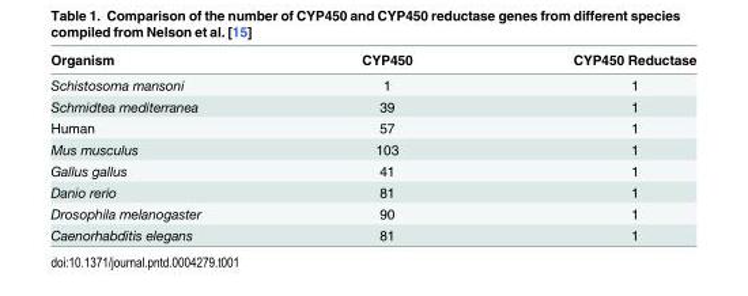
<table><thead><tr><td>Organism</td><td>CYP450</td><td>CYP450 Reductase</td></tr></thead><tbody><tr><td>Schistosoma mansoni</td><td>1</td><td>1</td></tr><tr><td>Schmidtea mediterranea</td><td>39</td><td>1</td></tr><tr><td>Human</td><td>57</td><td>1</td></tr><tr><td>Mus musculus</td><td>103</td><td>1</td></tr><tr><td>Gallus gallus</td><td>41</td><td>1</td></tr><tr><td>Danio rerio</td><td>81</td><td>1</td></tr><tr><td>Drosophila melanogaster</td><td>90</td><td>1</td></tr><tr><td>Caenorhabditis elegans</td><td>81</td><td>1</td></tr></tbody></table>